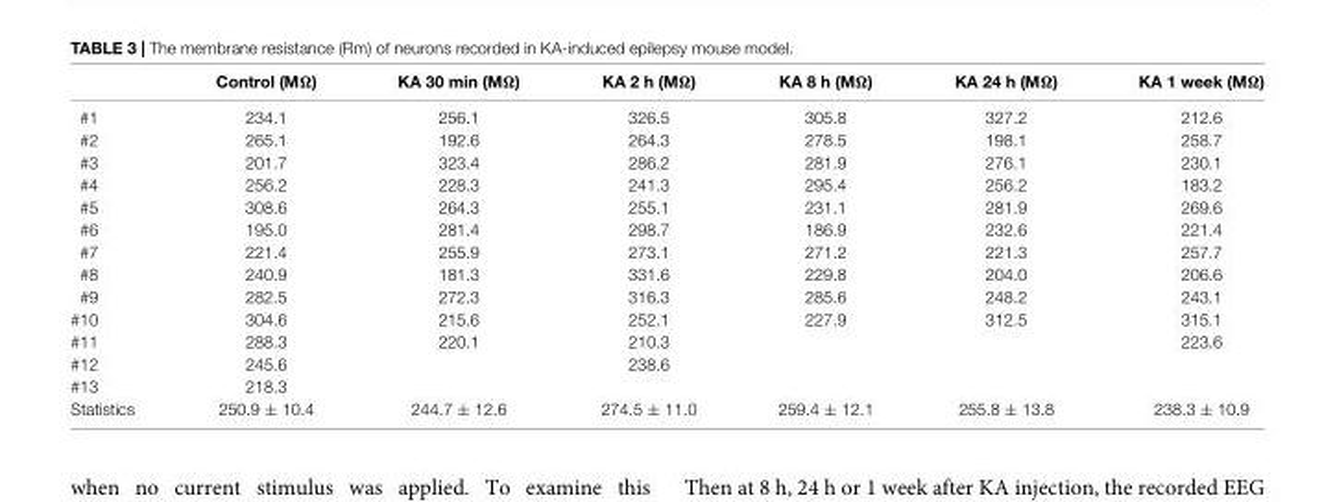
<table><thead><tr><td></td><td>Control (MΩ)</td><td>KA 30 min (MΩ)</td><td>KA 2 h (MΩ)</td><td>KA 8 h (MΩ)</td><td>KA 24 h (MΩ)</td><td>KA 1 week (MΩ)</td></tr></thead><tbody><tr><td>#1</td><td>234.1</td><td>256.1</td><td>326.5</td><td>305.8</td><td>327.2</td><td>212.6</td></tr><tr><td>#2</td><td>265.1</td><td>192.6</td><td>264.3</td><td>278.5</td><td>198.1</td><td>258.7</td></tr><tr><td>#3</td><td>201.7</td><td>323.4</td><td>286.2</td><td>281.9</td><td>276.1</td><td>230.1</td></tr><tr><td>#4</td><td>256.2</td><td>228.3</td><td>241.3</td><td>295.4</td><td>256.2</td><td>183.2</td></tr><tr><td>#5</td><td>308.6</td><td>264.3</td><td>255.1</td><td>231.1</td><td>281.9</td><td>269.6</td></tr><tr><td>#6</td><td>195.0</td><td>281.4</td><td>298.7</td><td>186.9</td><td>232.6</td><td>221.4</td></tr><tr><td>#7</td><td>221.4</td><td>255.9</td><td>273.1</td><td>271.2</td><td>221.3</td><td>257.7</td></tr><tr><td>#8</td><td>240.9</td><td>181.3</td><td>331.6</td><td>229.8</td><td>204.0</td><td>206.6</td></tr><tr><td>#9</td><td>282.5</td><td>272.3</td><td>316.3</td><td>285.6</td><td>248.2</td><td>243.1</td></tr><tr><td>#10</td><td>304.6</td><td>215.6</td><td>252.1</td><td>227.9</td><td>312.5</td><td>315.1</td></tr><tr><td>#11</td><td>288.3</td><td>220.1</td><td>210.3</td><td></td><td></td><td>223.6</td></tr><tr><td>#12</td><td>245.6</td><td></td><td>238.6</td><td></td><td></td><td></td></tr><tr><td>#13</td><td>218.3</td><td></td><td></td><td></td><td></td><td></td></tr><tr><td>Statistics</td><td>250.9 ± 10.4</td><td>244.7 ± 12.6</td><td>274.5 ± 11.0</td><td>259.4 ± 12.1</td><td>255.8 ± 13.8</td><td>238.3 ± 10.9</td></tr></tbody></table>